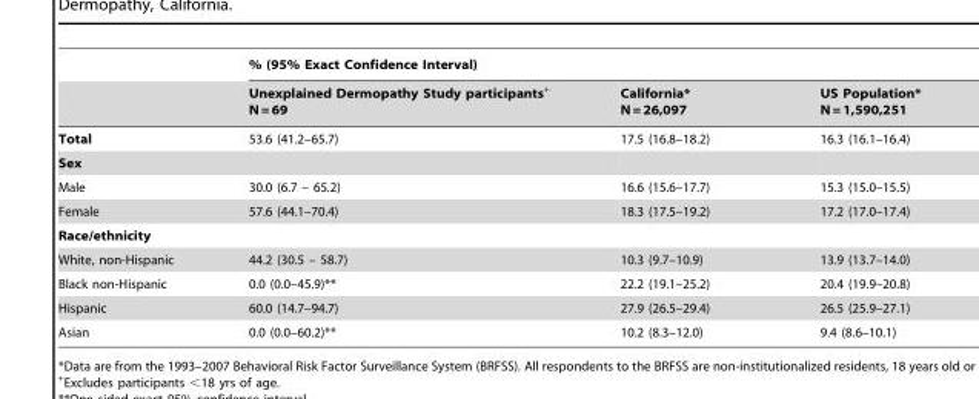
<table><thead><tr><td rowspan="2"></td><td colspan="3">% (95% Exact Confidence Interval)</td></tr><tr><td>Unexplained Dermopathy Study participants+ N = 69</td><td>California* N = 26,097</td><td>US Population* N = 1,590,251</td></tr></thead><tbody><tr><td>Total</td><td>53.6 (41.2–65.7)</td><td>17.5 (16.8–18.2)</td><td>16.3 (16.1–16.4)</td></tr><tr><td colspan="4">Sex</td></tr><tr><td>Male</td><td>30.0 (6.7 – 65.2)</td><td>16.6 (15.6–17.7)</td><td>15.3 (15.0–15.5)</td></tr><tr><td>Female</td><td>57.6 (44.1–70.4)</td><td>18.3 (17.5–19.2)</td><td>17.2 (17.0–17.4)</td></tr><tr><td colspan="4">Race/ethnicity</td></tr><tr><td>White, non-Hispanic</td><td>44.2 (30.5 – 58.7)</td><td>10.3 (9.7–10.9)</td><td>13.9 (13.7–14.0)</td></tr><tr><td>Black non-Hispanic</td><td>0.0 (0.0–45.9)**</td><td>22.2 (19.1–25.2)</td><td>20.4 (19.9–20.8)</td></tr><tr><td>Hispanic</td><td>60.0 (14.7–94.7)</td><td>27.9 (26.5–29.4)</td><td>26.5 (25.9–27.1)</td></tr><tr><td>Asian</td><td>0.0 (0.0–60.2)**</td><td>10.2 (8.3–12.0)</td><td>9.4 (8.6–10.1)</td></tr></tbody></table>